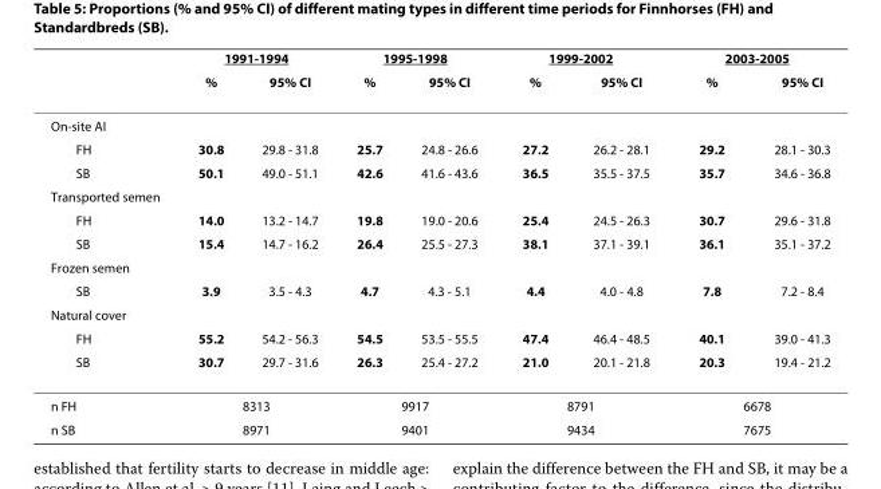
<table><thead><tr><td rowspan="2"></td><td colspan="2">1991-1994</td><td colspan="2">1995-1998</td><td colspan="2">1999-2002</td><td colspan="2">2003-2005</td></tr><tr><td>%</td><td>95% CI</td><td>%</td><td>95% CI</td><td>%</td><td>95% CI</td><td>%</td><td>95% CI</td></tr></thead><tbody><tr><td colspan="9">On-site AI</td></tr><tr><td>FH</td><td>30.8</td><td>29.8 - 31.8</td><td>25.7</td><td>24.8 - 26.6</td><td>27.2</td><td>26.2 - 28.1</td><td>29.2</td><td>28.1 - 30.3</td></tr><tr><td>SB</td><td>50.1</td><td>49.0 - 51.1</td><td>42.6</td><td>41.6 - 43.6</td><td>36.5</td><td>35.5 - 37.5</td><td>35.7</td><td>34.6 - 36.8</td></tr><tr><td colspan="9">Transported semen</td></tr><tr><td>FH</td><td>14.0</td><td>13.2 - 14.7</td><td>19.8</td><td>19.0 - 20.6</td><td>25.4</td><td>24.5 - 26.3</td><td>30.7</td><td>29.6 - 31.8</td></tr><tr><td>SB</td><td>15.4</td><td>14.7 - 16.2</td><td>26.4</td><td>25.5 - 27.3</td><td>38.1</td><td>37.1 - 39.1</td><td>36.1</td><td>35.1 - 37.2</td></tr><tr><td colspan="9">Frozen semen</td></tr><tr><td>SB</td><td>3.9</td><td>3.5 - 4.3</td><td>4.7</td><td>4.3 - 5.1</td><td>4.4</td><td>4.0 - 4.8</td><td>7.8</td><td>7.2 - 8.4</td></tr><tr><td colspan="9">Natural cover</td></tr><tr><td>FH</td><td>55.2</td><td>54.2 - 56.3</td><td>54.5</td><td>53.5 - 55.5</td><td>47.4</td><td>46.4 - 48.5</td><td>40.1</td><td>39.0 - 41.3</td></tr><tr><td>SB</td><td>30.7</td><td>29.7 - 31.6</td><td>26.3</td><td>25.4 - 27.2</td><td>21.0</td><td>20.1 - 21.8</td><td>20.3</td><td>19.4 - 21.2</td></tr><tr><td>n FH</td><td colspan="2">8313</td><td colspan="2">9917</td><td colspan="2">8791</td><td colspan="2">6678</td></tr><tr><td>n SB</td><td colspan="2">8971</td><td colspan="2">9401</td><td colspan="2">9434</td><td colspan="2">7675</td></tr></tbody></table>